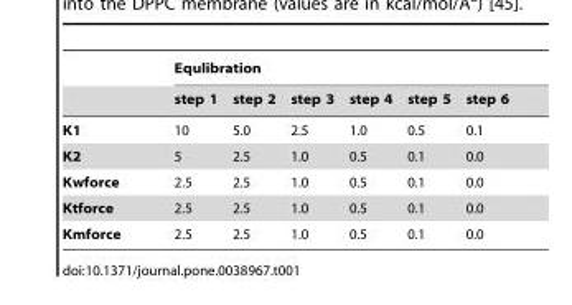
<table><thead><tr><td rowspan="2"></td><td colspan="6">Equlibration</td></tr><tr><td>step 1</td><td>step 2</td><td>step 3</td><td>step 4</td><td>step 5</td><td>step 6</td></tr></thead><tbody><tr><td>K1</td><td>10</td><td>5.0</td><td>2.5</td><td>1.0</td><td>0.5</td><td>0.1</td></tr><tr><td>K2</td><td>5</td><td>2.5</td><td>1.0</td><td>0.5</td><td>0.1</td><td>0.0</td></tr><tr><td>Kwforce</td><td>2.5</td><td>2.5</td><td>1.0</td><td>0.5</td><td>0.1</td><td>0.0</td></tr><tr><td>Ktforce</td><td>2.5</td><td>2.5</td><td>1.0</td><td>0.5</td><td>0.1</td><td>0.0</td></tr><tr><td>Kmforce</td><td>2.5</td><td>2.5</td><td>1.0</td><td>0.5</td><td>0.1</td><td>0.0</td></tr></tbody></table>